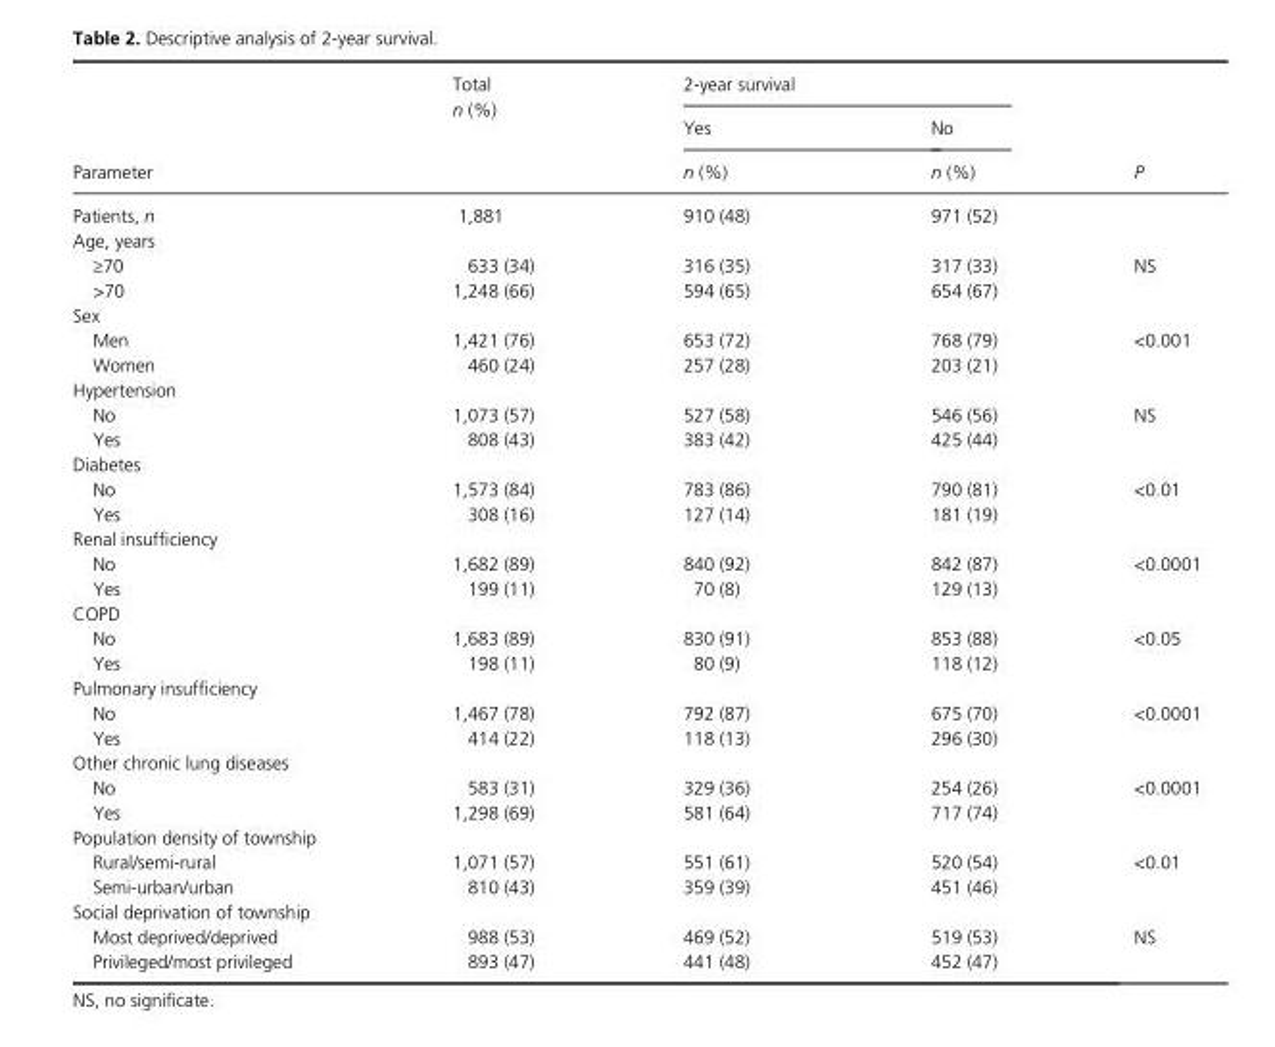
<table><thead><tr><td rowspan="3">Parameter</td><td rowspan="3">Total n (%)</td><td colspan="2">2- year survival</td><td rowspan="3">P</td></tr><tr><td rowspan="2">Yes n (%)</td><td rowspan="2">No n (%)</td></tr><tr></tr></thead><tbody><tr><td>Patients, n</td><td>1,881</td><td>910 (48)</td><td>971 (52)</td><td></td></tr><tr><td colspan="5">Age, years</td></tr><tr><td>≥70</td><td>633 (34)</td><td>316 (35)</td><td>317 (33)</td><td rowspan="2">NS</td></tr><tr><td>&gt;70</td><td>1,248 (66)</td><td>594 (65)</td><td>654 (67)</td></tr><tr><td colspan="5">Sex</td></tr><tr><td>Men</td><td>1,421 (76)</td><td>653 (72)</td><td>768 (79)</td><td rowspan="2">&lt;0.001</td></tr><tr><td>Women</td><td>460 (24)</td><td>257 (28)</td><td>203 (21)</td></tr><tr><td colspan="5">Hypertension</td></tr><tr><td>No</td><td>1,073 (57)</td><td>527 (58)</td><td>546 (56)</td><td rowspan="2">NS</td></tr><tr><td>Yes</td><td>808 (43)</td><td>383 (42)</td><td>425 (44)</td></tr><tr><td colspan="5">Diabetes</td></tr><tr><td>No</td><td>1,573 (84)</td><td>783 (86)</td><td>790 (81)</td><td rowspan="2">&lt;0.01</td></tr><tr><td>Yes</td><td>308 (16)</td><td>127 (14)</td><td>181 (19)</td></tr><tr><td colspan="5">Renal insufficiency</td></tr><tr><td>No</td><td>1,682 (89)</td><td>840 (92)</td><td>842 (87)</td><td rowspan="2">&lt;0.0001</td></tr><tr><td>Yes</td><td>199 (11)</td><td>70 (8)</td><td>129 (13)</td></tr><tr><td colspan="5">COPD</td></tr><tr><td>No</td><td>1,683 (89)</td><td>830 (91)</td><td>853 (88)</td><td rowspan="2">&lt;0.05</td></tr><tr><td>Yes</td><td>198 (11)</td><td>80 (9)</td><td>118 (12)</td></tr><tr><td colspan="5">Pulmonary insufficiency</td></tr><tr><td>No</td><td>1,467 (78)</td><td>792 (87)</td><td>675 (70)</td><td rowspan="2">&lt;0.0001</td></tr><tr><td>Yes</td><td>414 (22)</td><td>118 (13)</td><td>296 (30)</td></tr><tr><td colspan="5">Other chronic lung diseases</td></tr><tr><td>No</td><td>583 (31)</td><td>329 (36)</td><td>254 (26)</td><td rowspan="2">&lt;0.0001</td></tr><tr><td>Yes</td><td>1,298 (69)</td><td>581 (64)</td><td>717 (74)</td></tr><tr><td colspan="5">Population density of township</td></tr><tr><td>Rural/semi- rural</td><td>1,071 (57)</td><td>551 (61)</td><td>520 (54)</td><td rowspan="2">&lt;0.01</td></tr><tr><td>Semi- urban/urban</td><td>810 (43)</td><td>359 (39)</td><td>451 (46)</td></tr><tr><td colspan="5">Social deprivation of township</td></tr><tr><td>Most deprived/deprived</td><td>988 (53)</td><td>469 (52)</td><td>519 (53)</td><td rowspan="2">NS</td></tr><tr><td>Privileged/most privileged</td><td>893 (47)</td><td>441 (48)</td><td>452 (47)</td></tr></tbody></table>